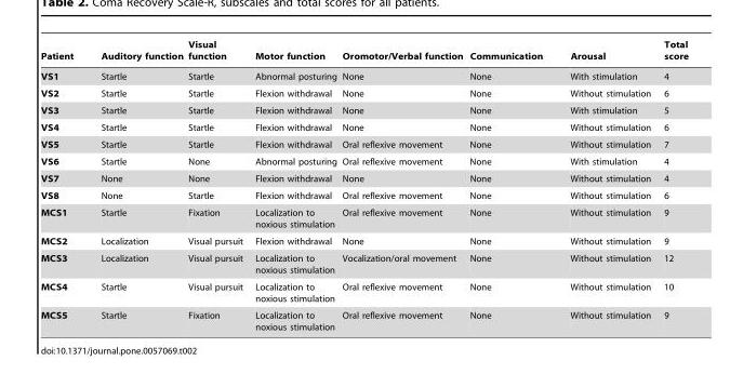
<table><thead><tr><td>Patient</td><td>Auditory function</td><td>Visual function</td><td>Motor function</td><td>Oromotor/Verbal function</td><td>Communication</td><td>Arousal</td><td>Total score</td></tr></thead><tbody><tr><td>VS1</td><td>Startle</td><td>Startle</td><td>Abnormal posturing</td><td>None</td><td>None</td><td>With stimulation</td><td>4</td></tr><tr><td>VS2</td><td>Startle</td><td>Startle</td><td>Flexion withdrawal</td><td>None</td><td>None</td><td>Without stimulation</td><td>6</td></tr><tr><td>VS3</td><td>Startle</td><td>Startle</td><td>Flexion withdrawal</td><td>None</td><td>None</td><td>With stimulation</td><td>5</td></tr><tr><td>VS4</td><td>Startle</td><td>Startle</td><td>Flexion withdrawal</td><td>None</td><td>None</td><td>Without stimulation</td><td>6</td></tr><tr><td>VS5</td><td>Startle</td><td>Startle</td><td>Flexion withdrawal</td><td>Oral reflexive movement</td><td>None</td><td>Without stimulation</td><td>7</td></tr><tr><td>VS6</td><td>Startle</td><td>None</td><td>Abnormal posturing</td><td>Oral reflexive movement</td><td>None</td><td>With stimulation</td><td>4</td></tr><tr><td>VS7</td><td>None</td><td>None</td><td>Flexion withdrawal</td><td>None</td><td>None</td><td>Without stimulation</td><td>4</td></tr><tr><td>VS8</td><td>None</td><td>Startle</td><td>Flexion withdrawal</td><td>Oral reflexive movement</td><td>None</td><td>Without stimulation</td><td>6</td></tr><tr><td>MCS1</td><td>Startle</td><td>Fixation</td><td>Localization to noxious stimulation</td><td>Oral reflexive movement</td><td>None</td><td>Without stimulation</td><td>9</td></tr><tr><td>MCS2</td><td>Localization</td><td>Visual pursuit</td><td>Flexion withdrawal</td><td>None</td><td>None</td><td>Without stimulation</td><td>9</td></tr><tr><td>MCS3</td><td>Localization</td><td>Visual pursuit</td><td>Localization to noxious stimulation</td><td>Vocalization/oral movement</td><td>None</td><td>Without stimulation</td><td>12</td></tr><tr><td>MCS4</td><td>Startle</td><td>Visual pursuit</td><td>Localization to noxious stimulation</td><td>Oral reflexive movement</td><td>None</td><td>Without stimulation</td><td>10</td></tr><tr><td>MCS5</td><td>Startle</td><td>Fixation</td><td>Localization to noxious stimulation</td><td>Oral reflexive movement</td><td>None</td><td>Without stimulation</td><td>9</td></tr></tbody></table>